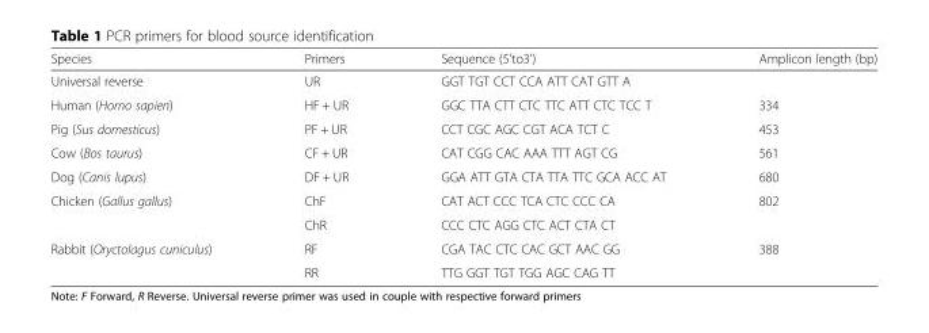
<table><thead><tr><td>Species</td><td>Primers</td><td>Sequence (5&#x27;to3&#x27;)</td><td>Amplicon length (bp)</td></tr></thead><tbody><tr><td>Universal reverse</td><td>UR</td><td>GGT TGT CCT CCA ATT CAT GTT A</td><td></td></tr><tr><td>Human (Homo sapien)</td><td>HF + UR</td><td>GGC TTA CTT CTC TTC ATT CTC TCC T</td><td>334</td></tr><tr><td>Pig (Sus domesticus)</td><td>PF + UR</td><td>CCT CGC AGC CGT ACA TCT C</td><td>453</td></tr><tr><td>Cow (Bos taurus)</td><td>CF + UR</td><td>CAT CGG CAC AAA TTT AGT CG</td><td>561</td></tr><tr><td>Dog (Canis lupus)</td><td>DF + UR</td><td>GGA ATT GTA CTA TTA TTC GCA ACC AT</td><td>680</td></tr><tr><td rowspan="2">Chicken (Gallus gallus)</td><td>ChF</td><td>CAT ACT CCC TCA CTC CCC CA</td><td rowspan="2">802</td></tr><tr><td>ChR</td><td>CCC CTC AGG CTC ACT CTA CT</td></tr><tr><td rowspan="2">Rabbit (Oryctolagus cuniculus)</td><td>RF</td><td>CGA TAC CTC CAC GCT AAC GG</td><td rowspan="2">388</td></tr><tr><td>RR</td><td>TTG GGT TGT TGG AGC CAG TT</td></tr></tbody></table>